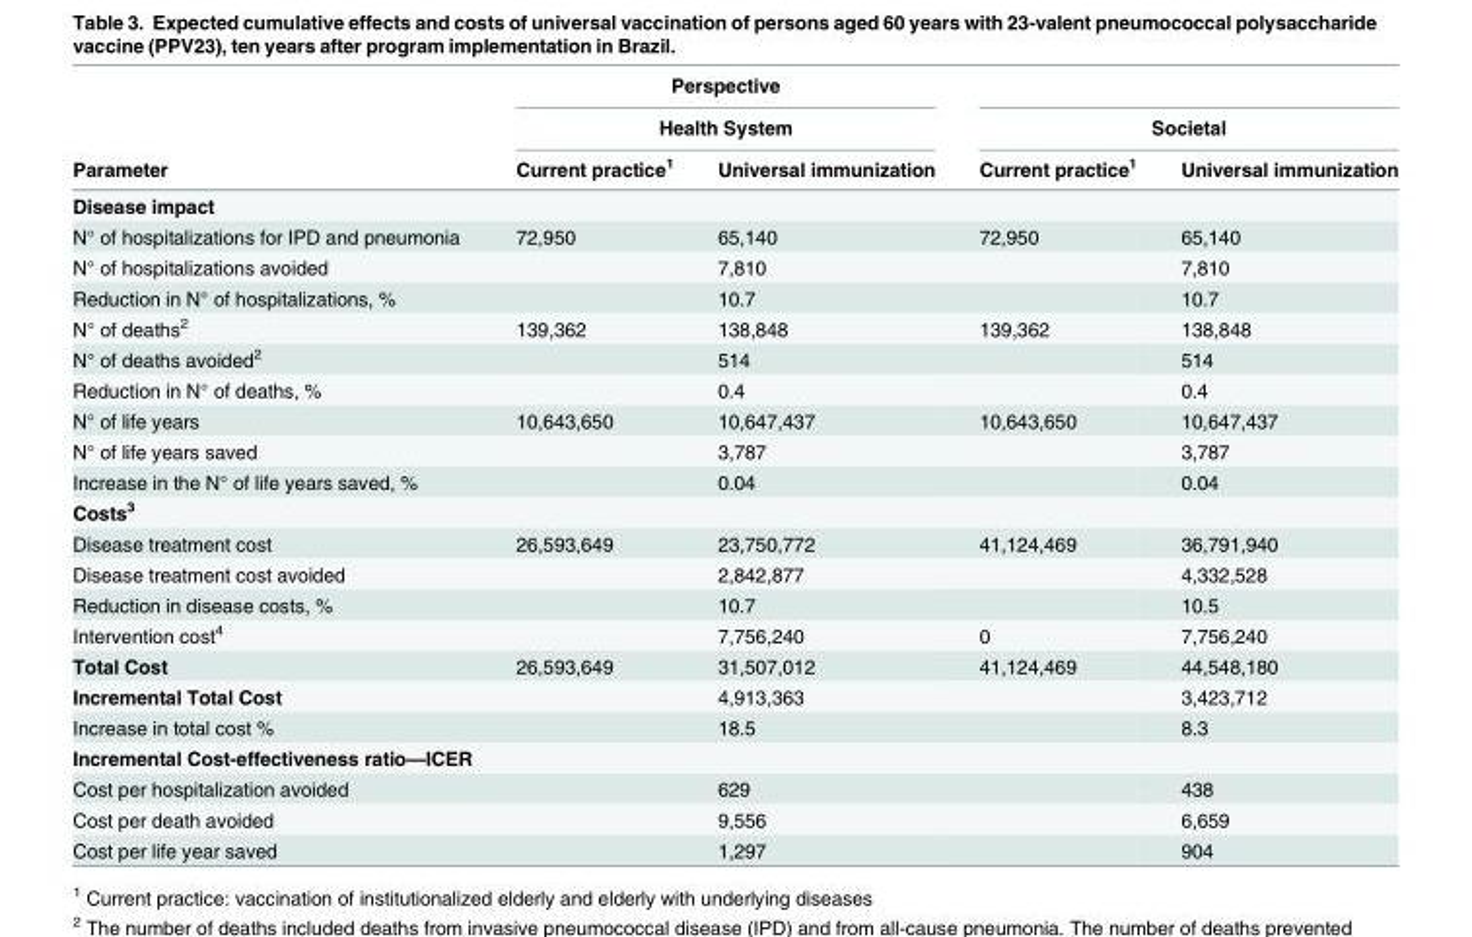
<table><thead><tr><td rowspan="3">Parameter</td><td rowspan="2" colspan="2">Perspective Health System</td><td></td><td></td></tr><tr><td colspan="2">Societal</td></tr><tr><td>Current practice<sup>1</sup></td><td>Universal immunization</td><td>Current practice<sup>1</sup></td><td>Universal immunization</td></tr></thead><tbody><tr><td colspan="5">Disease impact</td></tr><tr><td>N° of hospitalizations for IPD and pneumonia</td><td>72,950</td><td>65,140</td><td>72,950</td><td>65,140</td></tr><tr><td>N° of hospitalizations avoided</td><td></td><td>7,810</td><td></td><td>7,810</td></tr><tr><td>Reduction in N° of hospitalizations, %</td><td></td><td>10.7</td><td></td><td>10.7</td></tr><tr><td>N° of deaths<sup>2</sup></td><td>139,362</td><td>138,848</td><td>139,362</td><td>138,848</td></tr><tr><td>N° of deaths avoided<sup>2</sup></td><td></td><td>514</td><td></td><td>514</td></tr><tr><td>Reduction in N° of deaths, %</td><td></td><td>0.4</td><td></td><td>0.4</td></tr><tr><td>N° of life years</td><td>10,643,650</td><td>10,647,437</td><td>10,643,650</td><td>10,647,437</td></tr><tr><td>N° of life years saved</td><td></td><td>3,787</td><td></td><td>3,787</td></tr><tr><td>Increase in the N° of life years saved, %</td><td></td><td>0.04</td><td></td><td>0.04</td></tr><tr><td colspan="5">Costs<sup>3</sup></td></tr><tr><td>Disease treatment cost</td><td>26,593,649</td><td>23,750,772</td><td>41,124,469</td><td>36,791,940</td></tr><tr><td>Disease treatment cost avoided</td><td></td><td>2,842,877</td><td></td><td>4,332,528</td></tr><tr><td>Reduction in disease costs, %</td><td></td><td>10.7</td><td></td><td>10.5</td></tr><tr><td>Intervention cost<sup>4</sup></td><td></td><td>7,756,240</td><td>0</td><td>7,756,240</td></tr><tr><td>Total Cost</td><td>26,593,649</td><td>31,507,012</td><td>41,124,469</td><td>44,548,180</td></tr><tr><td>Incremental Total Cost</td><td></td><td>4,913,363</td><td></td><td>3,423,712</td></tr><tr><td>Increase in total cost %</td><td></td><td>18.5</td><td></td><td>8.3</td></tr><tr><td colspan="5">Incremental Cost-effectiveness ratio—ICER</td></tr><tr><td>Cost per hospitalization avoided</td><td></td><td>629</td><td></td><td>438</td></tr><tr><td>Cost per death avoided</td><td></td><td>9,556</td><td></td><td>6,659</td></tr><tr><td>Cost per life year saved</td><td></td><td>1,297</td><td></td><td>904</td></tr></tbody></table>